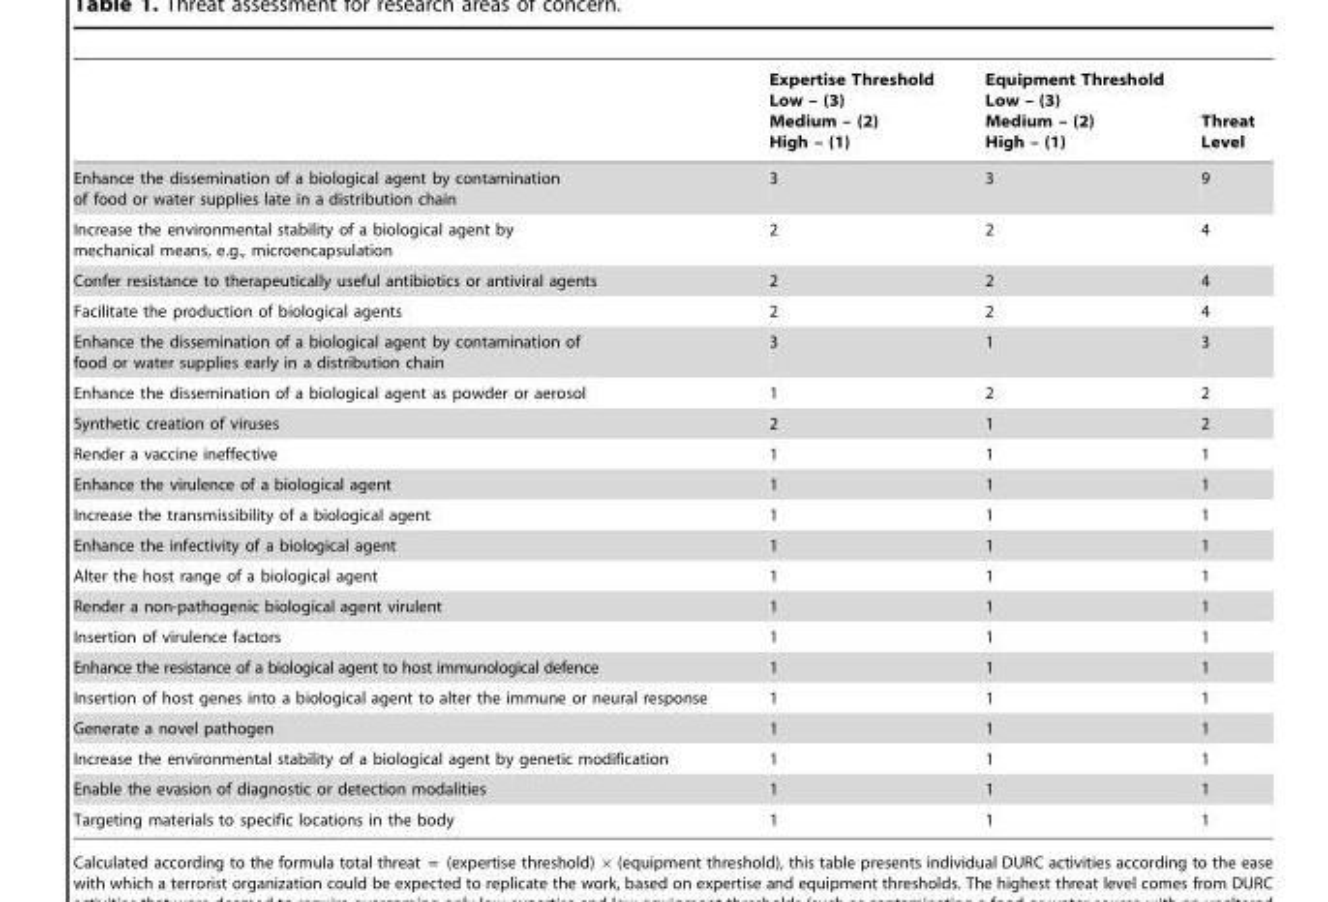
<table><thead><tr><td></td><td>Expertise Threshold Low – (3) Medium – (2) High – (1)</td><td>Equipment Threshold Low – (3) Medium – (2) High – (1)</td><td>Threat Level</td></tr></thead><tbody><tr><td>Enhance the dissemination of a biological agent by contamination of food or water supplies late in a distribution chain</td><td>3</td><td>3</td><td>9</td></tr><tr><td>Increase the environmental stability of a biological agent by mechanical means, e.g., microencapsulation</td><td>2</td><td>2</td><td>4</td></tr><tr><td>Confer resistance to therapeutically useful antibiotics or antiviral agents</td><td>2</td><td>2</td><td>4</td></tr><tr><td>Facilitate the production of biological agents</td><td>2</td><td>2</td><td>4</td></tr><tr><td>Enhance the dissemination of a biological agent by contamination of food or water supplies early in a distribution chain</td><td>3</td><td>1</td><td>3</td></tr><tr><td>Enhance the dissemination of a biological agent as powder or aerosol</td><td>1</td><td>2</td><td>2</td></tr><tr><td>Synthetic creation of viruses</td><td>2</td><td>1</td><td>2</td></tr><tr><td>Render a vaccine ineffective</td><td>1</td><td>1</td><td>1</td></tr><tr><td>Enhance the virulence of a biological agent</td><td>1</td><td>1</td><td>1</td></tr><tr><td>Increase the transmissibility of a biological agent</td><td>1</td><td>1</td><td>1</td></tr><tr><td>Enhance the infectivity of a biological agent</td><td>1</td><td>1</td><td>1</td></tr><tr><td>Alter the host range of a biological agent</td><td>1</td><td>1</td><td>1</td></tr><tr><td>Render a non-pathogenic biological agent virulent</td><td>1</td><td>1</td><td>1</td></tr><tr><td>Insertion of virulence factors</td><td>1</td><td>1</td><td>1</td></tr><tr><td>Enhance the resistance of a biological agent to host immunological defence</td><td>1</td><td>1</td><td>1</td></tr><tr><td>Insertion of host genes into a biological agent to alter the immune or neural response</td><td>1</td><td>1</td><td>1</td></tr><tr><td>Generate a novel pathogen</td><td>1</td><td>1</td><td>1</td></tr><tr><td>Increase the environmental stability of a biological agent by genetic modification</td><td>1</td><td>1</td><td>1</td></tr><tr><td>Enable the evasion of diagnostic or detection modalities</td><td>1</td><td>1</td><td>1</td></tr><tr><td>Targeting materials to specific locations in the body</td><td>1</td><td>1</td><td>1</td></tr></tbody></table>